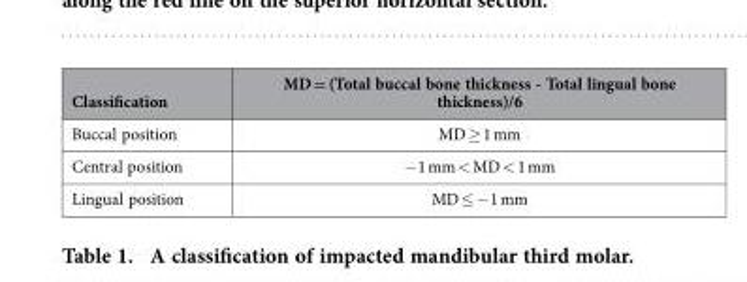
<table><thead><tr><td>Classification</td><td>MD = (Total buccal bone thickness - Total lingual bone thickness)/6</td></tr></thead><tbody><tr><td>Buccal position</td><td>MD ≥ 1 mm</td></tr><tr><td>Central position</td><td>− 1 mm &lt; MD &lt; 1 mm</td></tr><tr><td>Lingual position</td><td>MD ≤ − 1 mm</td></tr></tbody></table>